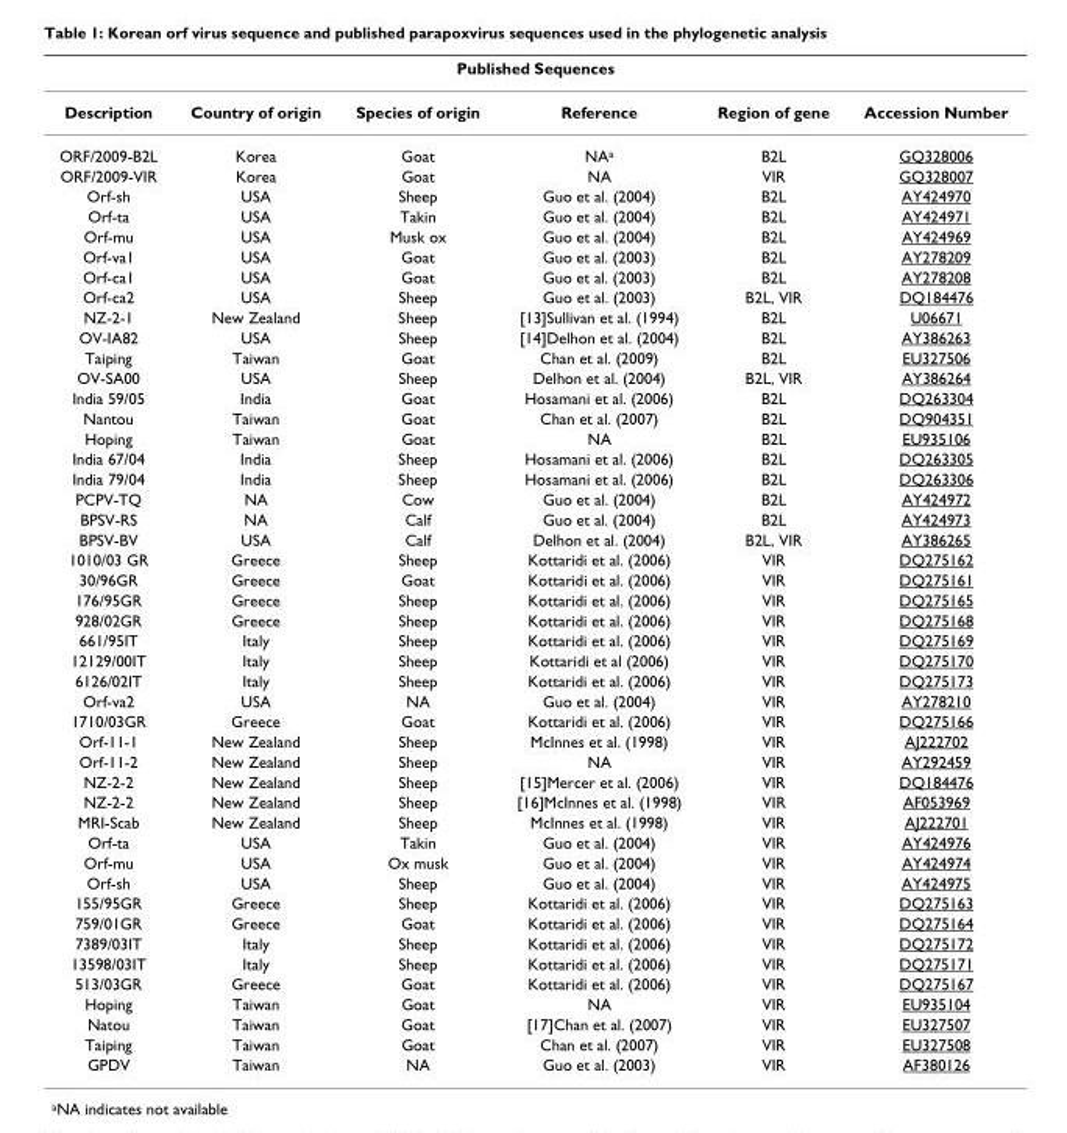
<table><thead><tr><td colspan="6">Published Sequences</td></tr><tr><td>Description</td><td>Country of origin</td><td>Species of origin</td><td>Reference</td><td>Region of gene</td><td>Accession Number</td></tr></thead><tbody><tr><td>ORF/2009-B2L</td><td>Korea</td><td>Goat</td><td>NA<sup>a</sup></td><td>B2L</td><td>GQ328006</td></tr><tr><td>ORF/2009-VIR</td><td>Korea</td><td>Goat</td><td>NA</td><td>VIR</td><td>GQ328007</td></tr><tr><td>Orf-sh</td><td>USA</td><td>Sheep</td><td>Guo et al. (2004)</td><td>B2L</td><td>AY424970</td></tr><tr><td>Orf-ta</td><td>USA</td><td>Takin</td><td>Guo et al. (2004)</td><td>B2L</td><td>AY424971</td></tr><tr><td>Orf-mu</td><td>USA</td><td>Musk ox</td><td>Guo et al. (2004)</td><td>B2L</td><td>AY424969</td></tr><tr><td>Orf-va1</td><td>USA</td><td>Goat</td><td>Guo et al. (2003)</td><td>B2L</td><td>AY278209</td></tr><tr><td>Orf-ca1</td><td>USA</td><td>Goat</td><td>Guo et al. (2003)</td><td>B2L</td><td>AY278208</td></tr><tr><td>Orf-ca2</td><td>USA</td><td>Sheep</td><td>Guo et al. (2003)</td><td>B2L, VIR</td><td>DQ184476</td></tr><tr><td>NZ-2-1</td><td>New Zealand</td><td>Sheep</td><td>[13]Sullivan et al. (1994)</td><td>B2L</td><td>U06671</td></tr><tr><td>OV-IA82</td><td>USA</td><td>Sheep</td><td>[14]Delhon et al. (2004)</td><td>B2L</td><td>AY386263</td></tr><tr><td>Taiping</td><td>Taiwan</td><td>Goat</td><td>Chan et al. (2009)</td><td>B2L</td><td>EU327506</td></tr><tr><td>OV-SA00</td><td>USA</td><td>Sheep</td><td>Delhon et al. (2004)</td><td>B2L, VIR</td><td>AY386264</td></tr><tr><td>India 59/05</td><td>India</td><td>Goat</td><td>Hosamani et al. (2006)</td><td>B2L</td><td>DQ263304</td></tr><tr><td>Nantou</td><td>Taiwan</td><td>Goat</td><td>Chan et al. (2007)</td><td>B2L</td><td>DQ904351</td></tr><tr><td>Hoping</td><td>Taiwan</td><td>Goat</td><td>NA</td><td>B2L</td><td>EU935106</td></tr><tr><td>India 67/04</td><td>India</td><td>Sheep</td><td>Hosamani et al. (2006)</td><td>B2L</td><td>DQ263305</td></tr><tr><td>India 79/04</td><td>India</td><td>Sheep</td><td>Hosamani et al. (2006)</td><td>B2L</td><td>DQ263306</td></tr><tr><td>PCPV-TQ</td><td>NA</td><td>Cow</td><td>Guo et al. (2004)</td><td>B2L</td><td>AY424972</td></tr><tr><td>BPSV-RS</td><td>NA</td><td>Calf</td><td>Guo et al. (2004)</td><td>B2L</td><td>AY424973</td></tr><tr><td>BPSV-BV</td><td>USA</td><td>Calf</td><td>Delhon et al. (2004)</td><td>B2L, VIR</td><td>AY386265</td></tr><tr><td>1010/03 GR</td><td>Greece</td><td>Sheep</td><td>Kottaridi et al. (2006)</td><td>VIR</td><td>DQ275162</td></tr><tr><td>30/96GR</td><td>Greece</td><td>Goat</td><td>Kottaridi et al. (2006)</td><td>VIR</td><td>DQ275161</td></tr><tr><td>176/95GR</td><td>Greece</td><td>Sheep</td><td>Kottaridi et al. (2006)</td><td>VIR</td><td>DQ275165</td></tr><tr><td>928/02GR</td><td>Greece</td><td>Sheep</td><td>Kottaridi et al. (2006)</td><td>VIR</td><td>DQ275168</td></tr><tr><td>661/95IT</td><td>Italy</td><td>Sheep</td><td>Kottaridi et al. (2006)</td><td>VIR</td><td>DQ275169</td></tr><tr><td>12129/00IT</td><td>Italy</td><td>Sheep</td><td>Kottaridi et al (2006)</td><td>VIR</td><td>DQ275170</td></tr><tr><td>6126/02IT</td><td>Italy</td><td>Sheep</td><td>Kottaridi et al. (2006)</td><td>VIR</td><td>DQ275173</td></tr><tr><td>Orf-va2</td><td>USA</td><td>NA</td><td>Guo et al. (2004)</td><td>VIR</td><td>AY278210</td></tr><tr><td>1710/03GR</td><td>Greece</td><td>Goat</td><td>Kottaridi et al. (2006)</td><td>VIR</td><td>DQ275166</td></tr><tr><td>Orf-11-1</td><td>New Zealand</td><td>Sheep</td><td>McInnes et al. (1998)</td><td>VIR</td><td>AJ222702</td></tr><tr><td>Orf-11-2</td><td>New Zealand</td><td>Sheep</td><td>NA</td><td>VIR</td><td>AY292459</td></tr><tr><td>NZ-2-2</td><td>New Zealand</td><td>Sheep</td><td>[15]Mercer et al. (2006)</td><td>VIR</td><td>DQ184476</td></tr><tr><td>NZ-2-2</td><td>New Zealand</td><td>Sheep</td><td>[16]McInnes et al. (1998)</td><td>VIR</td><td>AF053969</td></tr><tr><td>MRI-Scab</td><td>New Zealand</td><td>Sheep</td><td>McInnes et al. (1998)</td><td>VIR</td><td>AJ222701</td></tr><tr><td>Orf-ta</td><td>USA</td><td>Takin</td><td>Guo et al. (2004)</td><td>VIR</td><td>AY424976</td></tr><tr><td>Orf-mu</td><td>USA</td><td>Ox musk</td><td>Guo et al. (2004)</td><td>VIR</td><td>AY424974</td></tr><tr><td>Orf-sh</td><td>USA</td><td>Sheep</td><td>Guo et al. (2004)</td><td>VIR</td><td>AY424975</td></tr><tr><td>155/95GR</td><td>Greece</td><td>Sheep</td><td>Kottaridi et al. (2006)</td><td>VIR</td><td>DQ275163</td></tr><tr><td>759/01GR</td><td>Greece</td><td>Goat</td><td>Kottaridi et al. (2006)</td><td>VIR</td><td>DQ275164</td></tr><tr><td>7389/03IT</td><td>Italy</td><td>Sheep</td><td>Kottaridi et al. (2006)</td><td>VIR</td><td>DQ275172</td></tr><tr><td>13598/03IT</td><td>Italy</td><td>Sheep</td><td>Kottaridi et al. (2006)</td><td>VIR</td><td>DQ275171</td></tr><tr><td>513/03GR</td><td>Greece</td><td>Goat</td><td>Kottaridi et al. (2006)</td><td>VIR</td><td>DQ275167</td></tr><tr><td>Hoping</td><td>Taiwan</td><td>Goat</td><td>NA</td><td>VIR</td><td>EU935104</td></tr><tr><td>Natou</td><td>Taiwan</td><td>Goat</td><td>[17]Chan et al. (2007)</td><td>VIR</td><td>EU327507</td></tr><tr><td>Taiping</td><td>Taiwan</td><td>Goat</td><td>Chan et al. (2007)</td><td>VIR</td><td>EU327508</td></tr><tr><td>GPDV</td><td>Taiwan</td><td>NA</td><td>Guo et al. (2003)</td><td>VIR</td><td>AF380126</td></tr></tbody></table>